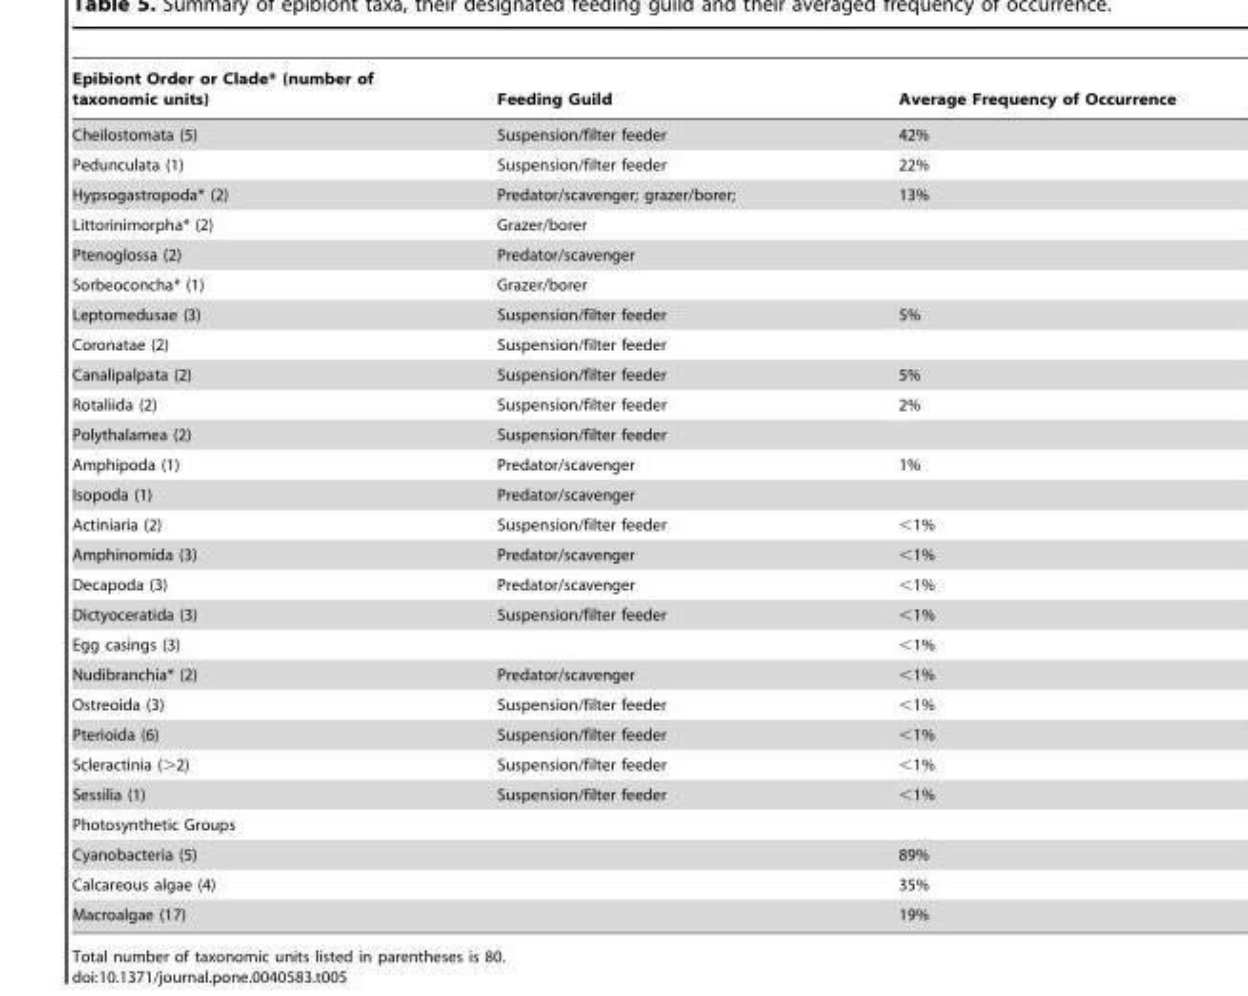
<table><thead><tr><td>Epibiont Order or Clade* (number of taxonomic units)</td><td>Feeding Guild</td><td>Average Frequency of Occurrence</td></tr></thead><tbody><tr><td>Cheilostomata (5)</td><td>Suspension/filter feeder</td><td>42%</td></tr><tr><td>Pedunculata (1)</td><td>Suspension/filter feeder</td><td>22%</td></tr><tr><td>Hypsogastropoda* (2)</td><td>Predator/scavenger; grazer/borer;</td><td>13%</td></tr><tr><td>Littorinimorpha* (2)</td><td>Grazer/borer</td><td></td></tr><tr><td>Ptenoglossa (2)</td><td>Predator/scavenger</td><td></td></tr><tr><td>Sorbeoconcha* (1)</td><td>Grazer/borer</td><td></td></tr><tr><td>Leptomedusae (3)</td><td>Suspension/filter feeder</td><td>5%</td></tr><tr><td>Coronatae (2)</td><td>Suspension/filter feeder</td><td></td></tr><tr><td>Canalipalpata (2)</td><td>Suspension/filter feeder</td><td>5%</td></tr><tr><td>Rotaliida (2)</td><td>Suspension/filter feeder</td><td>2%</td></tr><tr><td>Polythalamea (2)</td><td>Suspension/filter feeder</td><td></td></tr><tr><td>Amphipoda (1)</td><td>Predator/scavenger</td><td>1%</td></tr><tr><td>Isopoda (1)</td><td>Predator/scavenger</td><td></td></tr><tr><td>Actiniaria (2)</td><td>Suspension/filter feeder</td><td>&lt;1%</td></tr><tr><td>Amphinomida (3)</td><td>Predator/scavenger</td><td>&lt;1%</td></tr><tr><td>Decapoda (3)</td><td>Predator/scavenger</td><td>&lt;1%</td></tr><tr><td>Dictyoceratida (3)</td><td>Suspension/filter feeder</td><td>&lt;1%</td></tr><tr><td>Egg casings (3)</td><td></td><td>&lt;1%</td></tr><tr><td>Nudibranchia* (2)</td><td>Predator/scavenger</td><td>&lt;1%</td></tr><tr><td>Ostreoida (3)</td><td>Suspension/filter feeder</td><td>&lt;1%</td></tr><tr><td>Pterioida (6)</td><td>Suspension/filter feeder</td><td>&lt;1%</td></tr><tr><td>Scleractinia (&gt;2)</td><td>Suspension/filter feeder</td><td>&lt;1%</td></tr><tr><td>Sessilia (1)</td><td>Suspension/filter feeder</td><td>&lt;1%</td></tr><tr><td colspan="3">Photosynthetic Groups</td></tr><tr><td>Cyanobacteria (5)</td><td></td><td>89%</td></tr><tr><td>Calcareous algae (4)</td><td></td><td>35%</td></tr><tr><td>Macroalgae (17)</td><td></td><td>19%</td></tr></tbody></table>